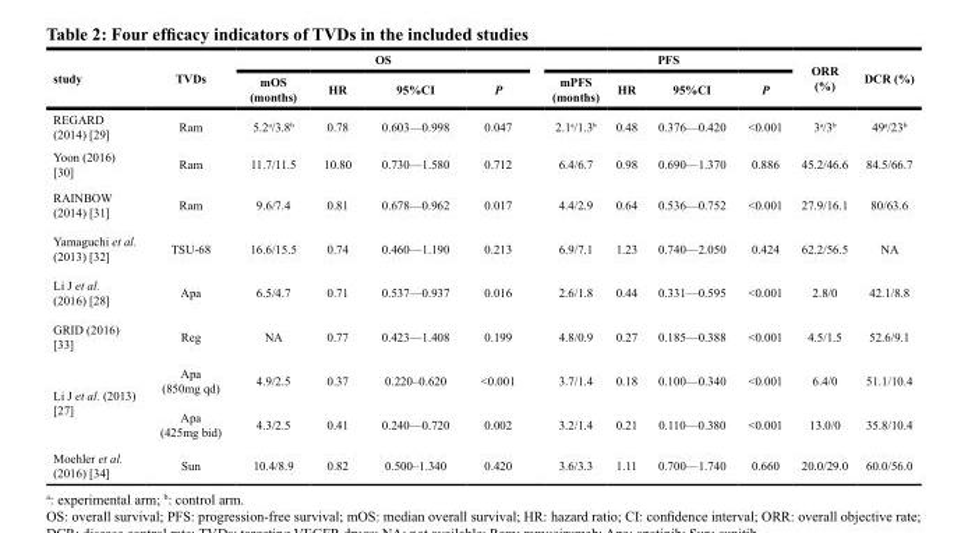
<table><thead><tr><td rowspan="2">study</td><td rowspan="2">TVDs</td><td colspan="4">OS</td><td colspan="4">PFS</td><td rowspan="2">ORR (%)</td><td rowspan="2">DCR (%)</td></tr><tr><td>mOS (months)</td><td>HR</td><td>95%CI</td><td>P</td><td>mPFS (months)</td><td>HR</td><td>95%CI</td><td>P</td></tr></thead><tbody><tr><td>REGARD (2014) [29]</td><td>Ram</td><td>5.2<sup>a</sup>/3.8<sup>b</sup></td><td>0.78</td><td>0.603—0.998</td><td>0.047</td><td>2.1<sup>a</sup>/1.3<sup>b</sup></td><td>0.48</td><td>0.376—0.420</td><td>&lt;0.001</td><td>3<sup>a</sup>/3<sup>b</sup></td><td>49<sup>a</sup>/23<sup>b</sup></td></tr><tr><td>Yoon (2016) [30]</td><td>Ram</td><td>11.7/11.5</td><td>10.80</td><td>0.730—1.580</td><td>0.712</td><td>6.4/6.7</td><td>0.98</td><td>0.690—1.370</td><td>0.886</td><td>45.2/46.6</td><td>84.5/66.7</td></tr><tr><td>RAINBOW (2014) [31]</td><td>Ram</td><td>9.6/7.4</td><td>0.81</td><td>0.678—0.962</td><td>0.017</td><td>4.4/2.9</td><td>0.64</td><td>0.536—0.752</td><td>&lt;0.001</td><td>27.9/16.1</td><td>80/63.6</td></tr><tr><td>Yamaguchi et al. (2013) [32]</td><td>TSU-68</td><td>16.6/15.5</td><td>0.74</td><td>0.460—1.190</td><td>0.213</td><td>6.9/7.1</td><td>1.23</td><td>0.740—2.050</td><td>0.424</td><td>62.2/56.5</td><td>NA</td></tr><tr><td>Li J et al. (2016) [28]</td><td>Apa</td><td>6.5/4.7</td><td>0.71</td><td>0.537—0.937</td><td>0.016</td><td>2.6/1.8</td><td>0.44</td><td>0.331—0.595</td><td>&lt;0.001</td><td>2.8/0</td><td>42.1/8.8</td></tr><tr><td>GRID (2016) [33]</td><td>Reg</td><td>NA</td><td>0.77</td><td>0.423—1.408</td><td>0.199</td><td>4.8/0.9</td><td>0.27</td><td>0.185—0.388</td><td>&lt;0.001</td><td>4.5/1.5</td><td>52.6/9.1</td></tr><tr><td rowspan="2">Li J et al. (2013) [27]</td><td>Apa (850mg qd)</td><td>4.9/2.5</td><td>0.37</td><td>0.220–0.620</td><td>&lt;0.001</td><td>3.7/1.4</td><td>0.18</td><td>0.100—0.340</td><td>&lt;0.001</td><td>6.4/0</td><td>51.1/10.4</td></tr><tr><td>Apa (425mg bid)</td><td>4.3/2.5</td><td>0.41</td><td>0.240—0.720</td><td>0.002</td><td>3.2/1.4</td><td>0.21</td><td>0.110—0.380</td><td>&lt;0.001</td><td>13.0/0</td><td>35.8/10.4</td></tr><tr><td>Moehler et al. (2016) [34]</td><td>Sun</td><td>10.4/8.9</td><td>0.82</td><td>0.500–1.340</td><td>0.420</td><td>3.6/3.3</td><td>1.11</td><td>0.700—1.740</td><td>0.660</td><td>20.0/29.0</td><td>60.0/56.0</td></tr></tbody></table>